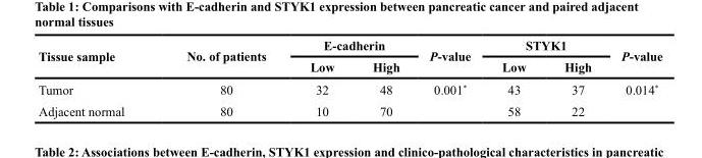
<table><thead><tr><td rowspan="2">Tissue sample</td><td rowspan="2">No. of patients</td><td colspan="2">E-cadherin</td><td rowspan="2">P-value</td><td colspan="2">STYK1</td><td rowspan="2">P-value</td></tr><tr><td>Low</td><td>High</td><td>Low</td><td>High</td></tr></thead><tbody><tr><td>Tumor</td><td>80</td><td>32</td><td>48</td><td>0.001*</td><td>43</td><td>37</td><td>0.014*</td></tr><tr><td>Adjacent normal</td><td>80</td><td>10</td><td>70</td><td></td><td>58</td><td>22</td><td></td></tr></tbody></table>